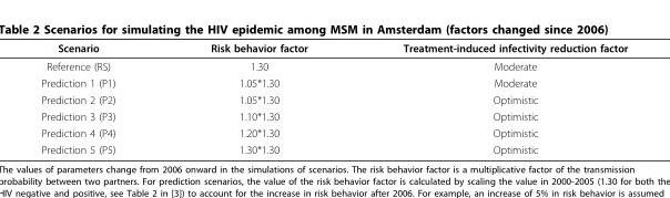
<table><thead><tr><td>Scenario</td><td>Risk behavior factor</td><td>Treatment-induced infectivity reduction factor</td></tr></thead><tbody><tr><td>Reference (RS)</td><td>1.30</td><td>Moderate</td></tr><tr><td>Prediction 1 (P1)</td><td>1.05*1.30</td><td>Moderate</td></tr><tr><td>Prediction 2 (P2)</td><td>1.05*1.30</td><td>Optimistic</td></tr><tr><td>Prediction 3 (P3)</td><td>1.10*1.30</td><td>Optimistic</td></tr><tr><td>Prediction 4 (P4)</td><td>1.20*1.30</td><td>Optimistic</td></tr><tr><td>Prediction 5 (P5)</td><td>1.30*1.30</td><td>Optimistic</td></tr></tbody></table>